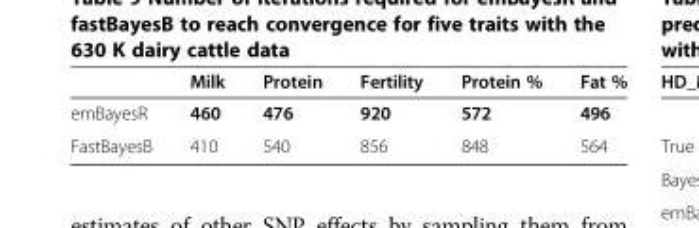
<table><thead><tr><td></td><td>Milk</td><td>Protein</td><td>Fertility</td><td>Protein %</td><td>Fat %</td></tr></thead><tbody><tr><td>emBayesR</td><td>460</td><td>476</td><td>920</td><td>572</td><td>496</td></tr><tr><td>FastBayesB</td><td>410</td><td>540</td><td>856</td><td>848</td><td>564</td></tr></tbody></table>